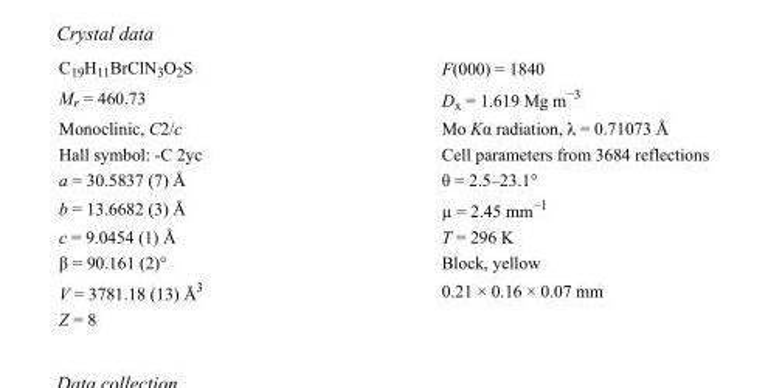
<table><tbody><tr><td>C<sub>19</sub>H<sub>11</sub>BrClN<sub>3</sub>O<sub>2</sub>S</td><td>F(000) = 1840</td></tr><tr><td>M<sub>r</sub> = 460.73</td><td>D<sub>x</sub> = 1.619 Mg m<sup>−3</sup></td></tr><tr><td>Monoclinic, C2/c</td><td>Mo Kα radiation, λ = 0.71073 Å</td></tr><tr><td>Hall symbol: -C 2yc</td><td>Cell parameters from 3684 reflections</td></tr><tr><td>a = 30.5837 (7) Å</td><td>θ = 2.5–23.1°</td></tr><tr><td>b = 13.6682 (3) Å</td><td>µ = 2.45 mm<sup>−1</sup></td></tr><tr><td>c = 9.0454 (1) Å</td><td>T = 296 K</td></tr><tr><td>β = 90.161 (2)°</td><td>Block, yellow</td></tr><tr><td>V = 3781.18 (13) Å<sup>3</sup></td><td>0.21 × 0.16 × 0.07 mm</td></tr><tr><td>Z = 8</td><td></td></tr></tbody></table>